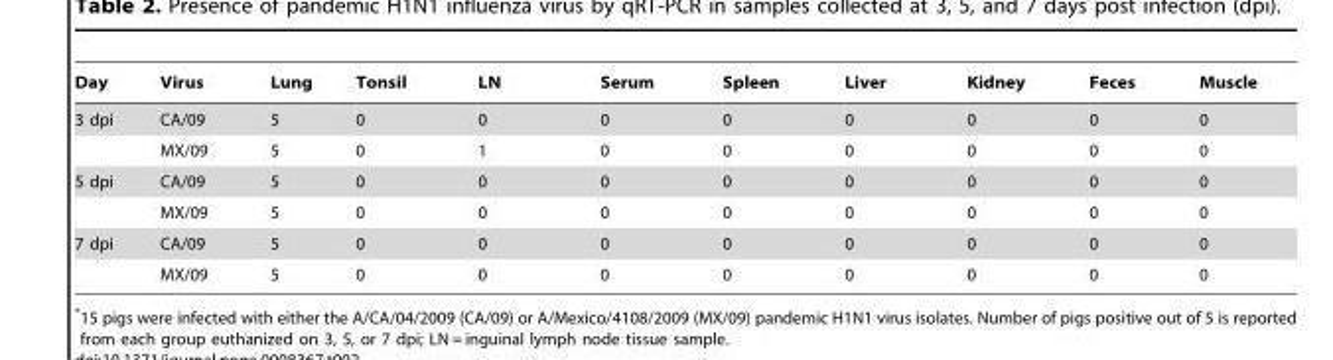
<table><thead><tr><td>Day</td><td>Virus</td><td>Lung</td><td>Tonsil</td><td>LN</td><td>Serum</td><td>Spleen</td><td>Liver</td><td>Kidney</td><td>Feces</td><td>Muscle</td></tr></thead><tbody><tr><td rowspan="2">3 dpi</td><td>CA/09</td><td>5</td><td>0</td><td>0</td><td>0</td><td>0</td><td>0</td><td>0</td><td>0</td><td>0</td></tr><tr><td>MX/09</td><td>5</td><td>0</td><td>1</td><td>0</td><td>0</td><td>0</td><td>0</td><td>0</td><td>0</td></tr><tr><td rowspan="2">5 dpi</td><td>CA/09</td><td>5</td><td>0</td><td>0</td><td>0</td><td>0</td><td>0</td><td>0</td><td>0</td><td>0</td></tr><tr><td>MX/09</td><td>5</td><td>0</td><td>0</td><td>0</td><td>0</td><td>0</td><td>0</td><td>0</td><td>0</td></tr><tr><td rowspan="2">7 dpi</td><td>CA/09</td><td>5</td><td>0</td><td>0</td><td>0</td><td>0</td><td>0</td><td>0</td><td>0</td><td>0</td></tr><tr><td>MX/09</td><td>5</td><td>0</td><td>0</td><td>0</td><td>0</td><td>0</td><td>0</td><td>0</td><td>0</td></tr></tbody></table>